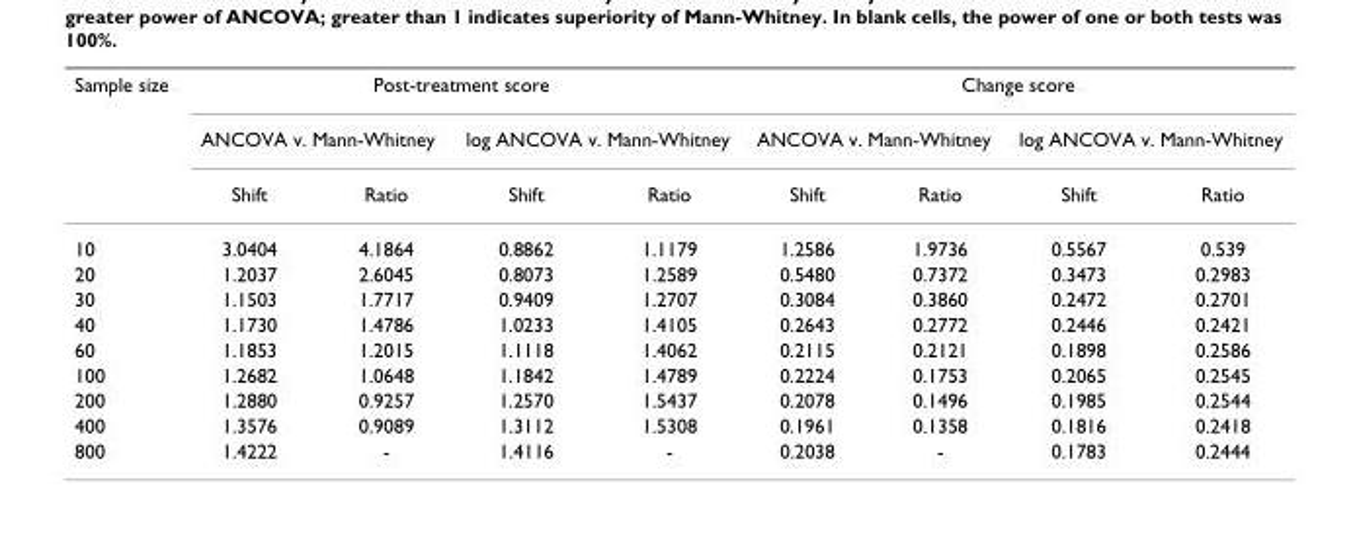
<table><thead><tr><td rowspan="3">Sample size</td><td colspan="4">Post-treatment score</td><td colspan="4">Change score</td></tr><tr><td colspan="2">ANCOVA v. Mann-Whitney</td><td colspan="2">log ANCOVA v. Mann-Whitney</td><td colspan="2">ANCOVA v. Mann-Whitney</td><td colspan="2">log ANCOVA v. Mann-Whitney</td></tr><tr><td>Shift</td><td>Ratio</td><td>Shift</td><td>Ratio</td><td>Shift</td><td>Ratio</td><td>Shift</td><td>Ratio</td></tr></thead><tbody><tr><td>10</td><td>3.0404</td><td>4.1864</td><td>0.8862</td><td>1.1179</td><td>1.2586</td><td>1.9736</td><td>0.5567</td><td>0.539</td></tr><tr><td>20</td><td>1.2037</td><td>2.6045</td><td>0.8073</td><td>1.2589</td><td>0.5480</td><td>0.7372</td><td>0.3473</td><td>0.2983</td></tr><tr><td>30</td><td>1.1503</td><td>1.7717</td><td>0.9409</td><td>1.2707</td><td>0.3084</td><td>0.3860</td><td>0.2472</td><td>0.2701</td></tr><tr><td>40</td><td>1.1730</td><td>1.4786</td><td>1.0233</td><td>1.4105</td><td>0.2643</td><td>0.2772</td><td>0.2446</td><td>0.2421</td></tr><tr><td>60</td><td>1.1853</td><td>1.2015</td><td>1.1118</td><td>1.4062</td><td>0.2115</td><td>0.2121</td><td>0.1898</td><td>0.2586</td></tr><tr><td>100</td><td>1.2682</td><td>1.0648</td><td>1.1842</td><td>1.4789</td><td>0.2224</td><td>0.1753</td><td>0.2065</td><td>0.2545</td></tr><tr><td>200</td><td>1.2880</td><td>0.9257</td><td>1.2570</td><td>1.5437</td><td>0.2078</td><td>0.1496</td><td>0.1985</td><td>0.2544</td></tr><tr><td>400</td><td>1.3576</td><td>0.9089</td><td>1.3112</td><td>1.5308</td><td>0.1961</td><td>0.1358</td><td>0.1816</td><td>0.2418</td></tr><tr><td>800</td><td>1.4222</td><td>-</td><td>1.4116</td><td>-</td><td>0.2038</td><td>-</td><td>0.1783</td><td>0.2444</td></tr></tbody></table>